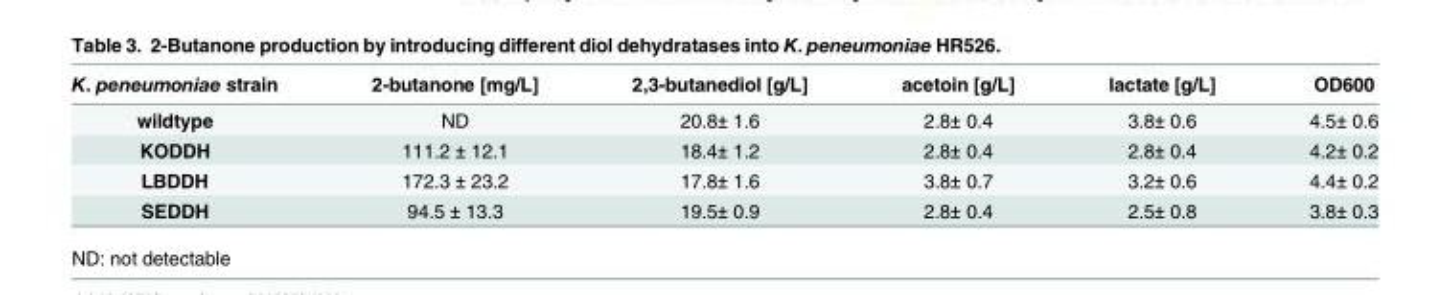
<table><thead><tr><td>K. peneumoniae strain</td><td>2-butanone [mg/L]</td><td>2,3-butanediol [g/L]</td><td>acetoin [g/L]</td><td>lactate [g/L]</td><td>OD600</td></tr></thead><tbody><tr><td>wildtype</td><td>ND</td><td>20.8± 1.6</td><td>2.8± 0.4</td><td>3.8± 0.6</td><td>4.5± 0.6</td></tr><tr><td>KODDH</td><td>111.2 ± 12.1</td><td>18.4± 1.2</td><td>2.8± 0.4</td><td>2.8± 0.4</td><td>4.2± 0.2</td></tr><tr><td>LBDDH</td><td>172.3 ± 23.2</td><td>17.8± 1.6</td><td>3.8± 0.7</td><td>3.2± 0.6</td><td>4.4± 0.2</td></tr><tr><td>SEDDH</td><td>94.5 ± 13.3</td><td>19.5± 0.9</td><td>2.8± 0.4</td><td>2.5± 0.8</td><td>3.8± 0.3</td></tr></tbody></table>